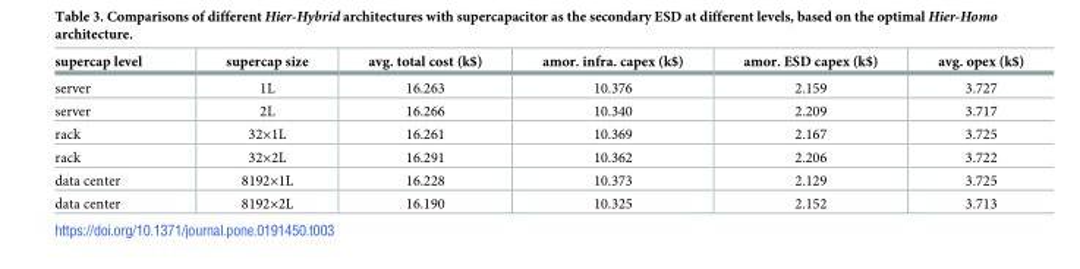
<table><thead><tr><td>supercap level</td><td>supercap size</td><td>avg. total cost (k$)</td><td>amor. infra. capex (k$)</td><td>amor. ESD capex (k$)</td><td>avg. opex (k$)</td></tr></thead><tbody><tr><td>server</td><td>1L</td><td>16.263</td><td>10.376</td><td>2.159</td><td>3.727</td></tr><tr><td>server</td><td>2L</td><td>16.266</td><td>10.340</td><td>2.209</td><td>3.717</td></tr><tr><td>rack</td><td>32×1L</td><td>16.261</td><td>10.369</td><td>2.167</td><td>3.725</td></tr><tr><td>rack</td><td>32×2L</td><td>16.291</td><td>10.362</td><td>2.206</td><td>3.722</td></tr><tr><td>data center</td><td>8192×1L</td><td>16.228</td><td>10.373</td><td>2.129</td><td>3.725</td></tr><tr><td>data center</td><td>8192×2L</td><td>16.190</td><td>10.325</td><td>2.152</td><td>3.713</td></tr></tbody></table>